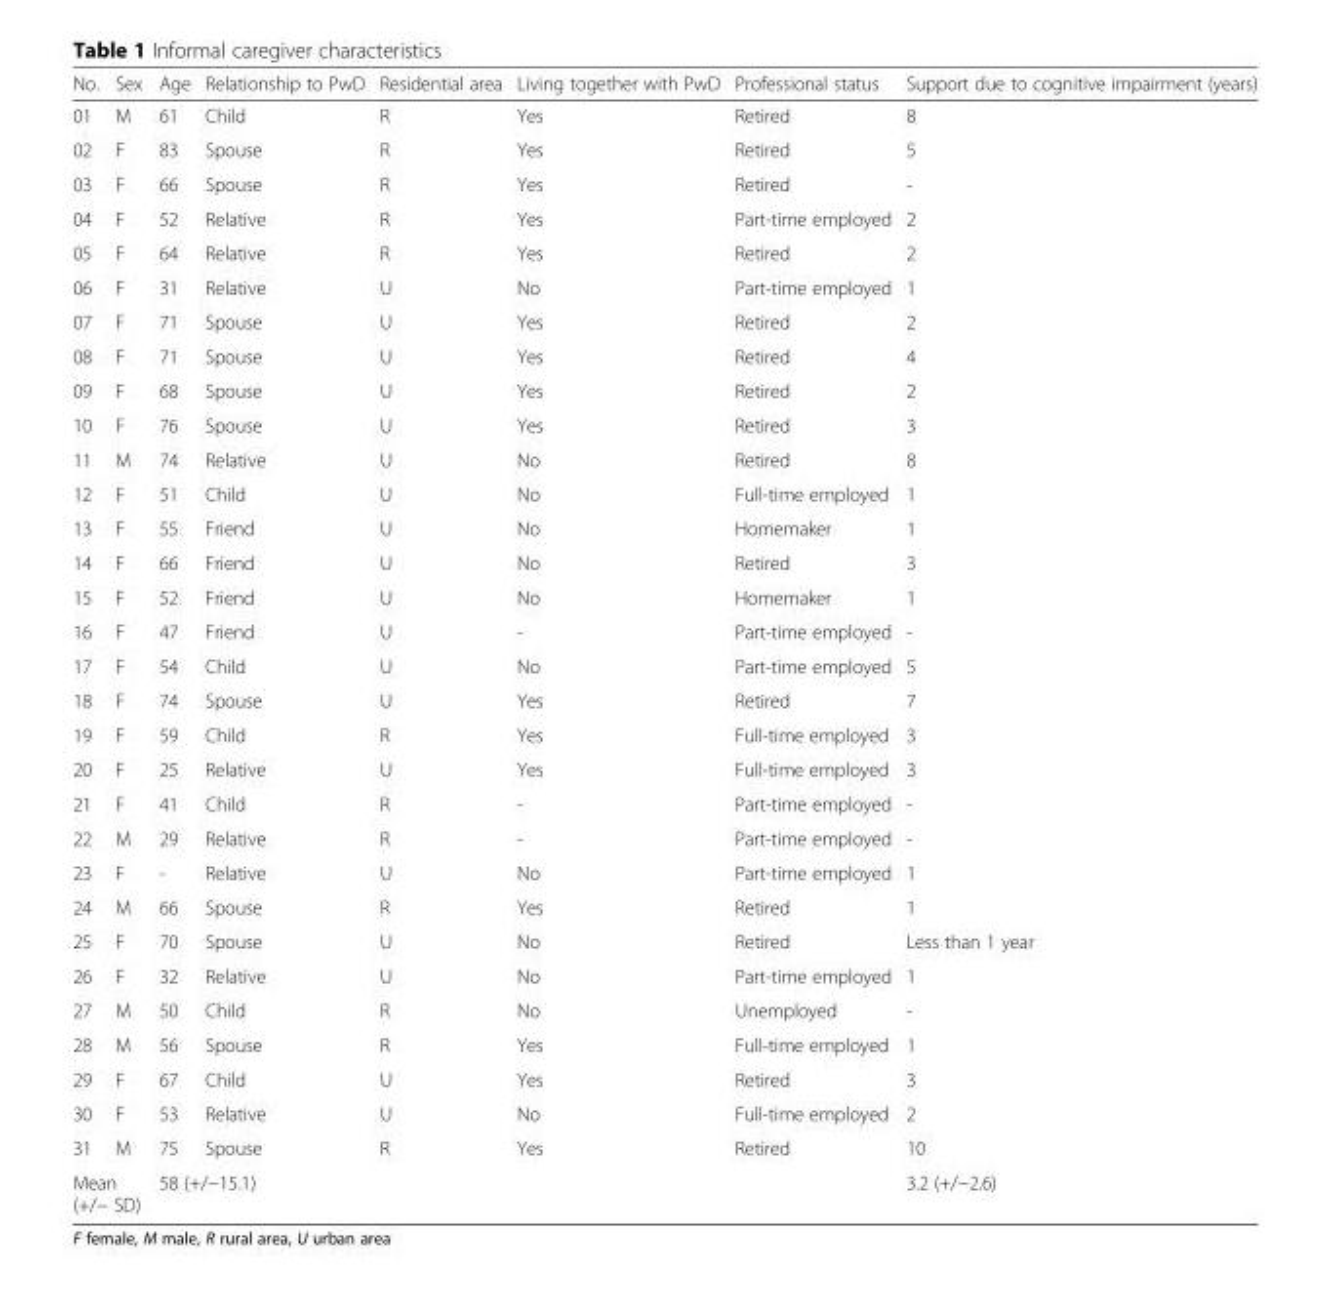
<table><thead><tr><td>No.</td><td>Sex</td><td>Age</td><td>Relationship to PwD</td><td>Residential area</td><td>Living together with PwD</td><td>Professional status</td><td>Support due to cognitive impairment (years)</td></tr></thead><tbody><tr><td>01</td><td>M</td><td>61</td><td>Child</td><td>R</td><td>Yes</td><td>Retired</td><td>8</td></tr><tr><td>02</td><td>F</td><td>83</td><td>Spouse</td><td>R</td><td>Yes</td><td>Retired</td><td>5</td></tr><tr><td>03</td><td>F</td><td>66</td><td>Spouse</td><td>R</td><td>Yes</td><td>Retired</td><td>-</td></tr><tr><td>04</td><td>F</td><td>52</td><td>Relative</td><td>R</td><td>Yes</td><td>Part-time employed</td><td>2</td></tr><tr><td>05</td><td>F</td><td>64</td><td>Relative</td><td>R</td><td>Yes</td><td>Retired</td><td>2</td></tr><tr><td>06</td><td>F</td><td>31</td><td>Relative</td><td>U</td><td>No</td><td>Part-time employed</td><td>1</td></tr><tr><td>07</td><td>F</td><td>71</td><td>Spouse</td><td>U</td><td>Yes</td><td>Retired</td><td>2</td></tr><tr><td>08</td><td>F</td><td>71</td><td>Spouse</td><td>U</td><td>Yes</td><td>Retired</td><td>4</td></tr><tr><td>09</td><td>F</td><td>68</td><td>Spouse</td><td>U</td><td>Yes</td><td>Retired</td><td>2</td></tr><tr><td>10</td><td>F</td><td>76</td><td>Spouse</td><td>U</td><td>Yes</td><td>Retired</td><td>3</td></tr><tr><td>11</td><td>M</td><td>74</td><td>Relative</td><td>U</td><td>No</td><td>Retired</td><td>8</td></tr><tr><td>12</td><td>F</td><td>51</td><td>Child</td><td>U</td><td>No</td><td>Full-time employed</td><td>1</td></tr><tr><td>13</td><td>F</td><td>55</td><td>Friend</td><td>U</td><td>No</td><td>Homemaker</td><td>1</td></tr><tr><td>14</td><td>F</td><td>66</td><td>Friend</td><td>U</td><td>No</td><td>Retired</td><td>3</td></tr><tr><td>15</td><td>F</td><td>52</td><td>Friend</td><td>U</td><td>No</td><td>Homemaker</td><td>1</td></tr><tr><td>16</td><td>F</td><td>47</td><td>Friend</td><td>U</td><td>-</td><td>Part-time employed</td><td>-</td></tr><tr><td>17</td><td>F</td><td>54</td><td>Child</td><td>U</td><td>No</td><td>Part-time employed</td><td>5</td></tr><tr><td>18</td><td>F</td><td>74</td><td>Spouse</td><td>U</td><td>Yes</td><td>Retired</td><td>7</td></tr><tr><td>19</td><td>F</td><td>59</td><td>Child</td><td>R</td><td>Yes</td><td>Full-time employed</td><td>3</td></tr><tr><td>20</td><td>F</td><td>25</td><td>Relative</td><td>U</td><td>Yes</td><td>Full-time employed</td><td>3</td></tr><tr><td>21</td><td>F</td><td>41</td><td>Child</td><td>R</td><td>-</td><td>Part-time employed</td><td>-</td></tr><tr><td>22</td><td>M</td><td>29</td><td>Relative</td><td>R</td><td>-</td><td>Part-time employed</td><td>-</td></tr><tr><td>23</td><td>F</td><td>-</td><td>Relative</td><td>U</td><td>No</td><td>Part-time employed</td><td>1</td></tr><tr><td>24</td><td>M</td><td>66</td><td>Spouse</td><td>R</td><td>Yes</td><td>Retired</td><td>1</td></tr><tr><td>25</td><td>F</td><td>70</td><td>Spouse</td><td>U</td><td>No</td><td>Retired</td><td>Less than 1 year</td></tr><tr><td>26</td><td>F</td><td>32</td><td>Relative</td><td>U</td><td>No</td><td>Part-time employed</td><td>1</td></tr><tr><td>27</td><td>M</td><td>50</td><td>Child</td><td>R</td><td>No</td><td>Unemployed</td><td>-</td></tr><tr><td>28</td><td>M</td><td>56</td><td>Spouse</td><td>R</td><td>Yes</td><td>Full-time employed</td><td>1</td></tr><tr><td>29</td><td>F</td><td>67</td><td>Child</td><td>U</td><td>Yes</td><td>Retired</td><td>3</td></tr><tr><td>30</td><td>F</td><td>53</td><td>Relative</td><td>U</td><td>No</td><td>Full-time employed</td><td>2</td></tr><tr><td>31</td><td>M</td><td>75</td><td>Spouse</td><td>R</td><td>Yes</td><td>Retired</td><td>10</td></tr><tr><td colspan="2">Mean (+/− SD)</td><td colspan="2">58 (+/−15.1)</td><td></td><td></td><td></td><td>3.2 (+/−2.6)</td></tr></tbody></table>